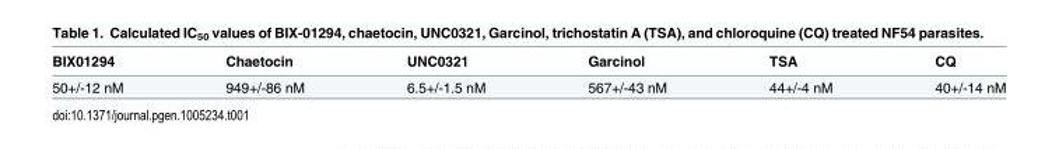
<table><thead><tr><td>BIX01294</td><td>Chaetocin</td><td>UNC0321</td><td>Garcinol</td><td>TSA</td><td>CQ</td></tr></thead><tbody><tr><td>50+/-12 nM</td><td>949+/-86 nM</td><td>6.5+/-1.5 nM</td><td>567+/-43 nM</td><td>44+/-4 nM</td><td>40+/-14 nM</td></tr></tbody></table>